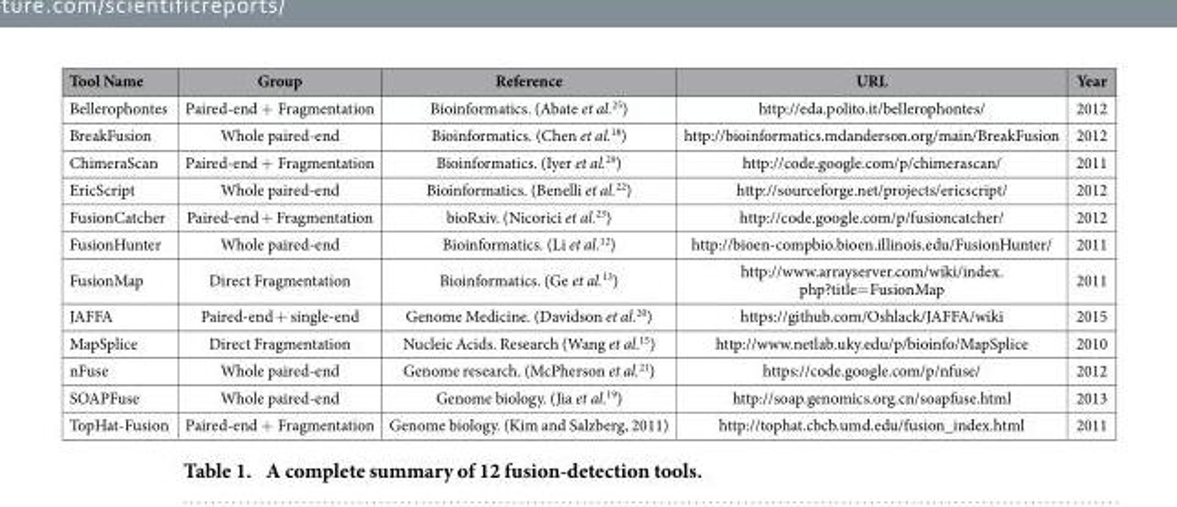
<table><thead><tr><td>Tool Name</td><td>Group</td><td>Reference</td><td>URL</td><td>Year</td></tr></thead><tbody><tr><td>Bellerophontes</td><td>Paired-end + Fragmentation</td><td>Bioinformatics. (Abate et al.<sup>25</sup>)</td><td>http://eda.polito.it/bellerophontes/</td><td>2012</td></tr><tr><td>BreakFusion</td><td>Whole paired-end</td><td>Bioinformatics. (Chen et al.<sup>18</sup>)</td><td>http://bioinformatics.mdanderson.org/main/BreakFusion</td><td>2012</td></tr><tr><td>ChimeraScan</td><td>Paired-end + Fragmentation</td><td>Bioinformatics. (Iyer et al.<sup>29</sup>)</td><td>http://code.google.com/p/chimerascan/</td><td>2011</td></tr><tr><td>EricScript</td><td>Whole paired-end</td><td>Bioinformatics. (Benelli et al.<sup>22</sup>)</td><td>http://sourceforge.net/projects/ericscript/</td><td>2012</td></tr><tr><td>FusionCatcher</td><td>Paired-end + Fragmentation</td><td>bioRxiv. (Nicorici et al.<sup>23</sup>)</td><td>http://code.google.com/p/fusioncatcher/</td><td>2012</td></tr><tr><td>FusionHunter</td><td>Whole paired-end</td><td>Bioinformatics. (Li et al.<sup>12</sup>)</td><td>http://bioen-compbio.bioen.illinois.edu/FusionHunter/</td><td>2011</td></tr><tr><td>FusionMap</td><td>Direct Fragmentation</td><td>Bioinformatics. (Ge et al.<sup>13</sup>)</td><td>http://www.arrayserver.com/wiki/index. php?title= FusionMap</td><td>2011</td></tr><tr><td>JAFFA</td><td>Paired-end + single-end</td><td>Genome Medicine. (Davidson et al.<sup>20</sup>)</td><td>https://github.com/Oshlack/JAFFA/wiki</td><td>2015</td></tr><tr><td>MapSplice</td><td>Direct Fragmentation</td><td>Nucleic Acids. Research (Wang et al.<sup>15</sup>)</td><td>http://www.netlab.uky.edu/p/bioinfo/MapSplice</td><td>2010</td></tr><tr><td>nFuse</td><td>Whole paired-end</td><td>Genome research. (McPherson et al.<sup>21</sup>)</td><td>https://code.google.com/p/nfuse/</td><td>2012</td></tr><tr><td>SOAPFuse</td><td>Whole paired-end</td><td>Genome biology. (Jia et al.<sup>19</sup>)</td><td>http://soap.genomics.org.cn/soapfuse.html</td><td>2013</td></tr><tr><td>TopHat-Fusion</td><td>Paired-end + Fragmentation</td><td>Genome biology. (Kim and Salzberg, 2011)</td><td>http://tophat.cbcb.umd.edu/fusion_index.html</td><td>2011</td></tr></tbody></table>